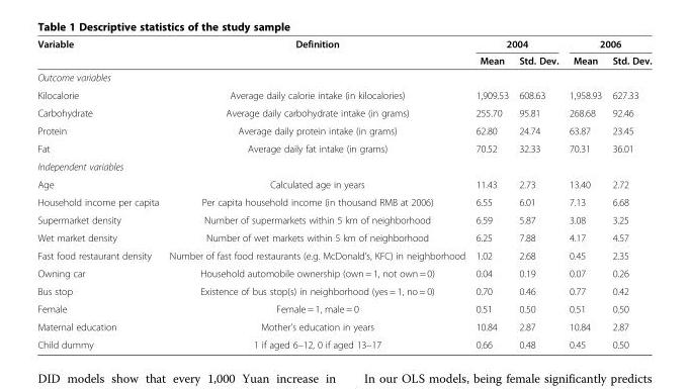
<table><thead><tr><td rowspan="2">Variable</td><td rowspan="2">Definition</td><td colspan="2">2004</td><td colspan="2">2006</td></tr><tr><td>Mean</td><td>Std. Dev.</td><td>Mean</td><td>Std. Dev.</td></tr></thead><tbody><tr><td colspan="6">Outcome variables</td></tr><tr><td>Kilocalorie</td><td>Average daily calorie intake (in kilocalories)</td><td>1,909.53</td><td>608.63</td><td>1,958.93</td><td>627.33</td></tr><tr><td>Carbohydrate</td><td>Average daily carbohydrate intake (in grams)</td><td>255.70</td><td>95.81</td><td>268.68</td><td>92.46</td></tr><tr><td>Protein</td><td>Average daily protein intake (in grams)</td><td>62.80</td><td>24.74</td><td>63.87</td><td>23.45</td></tr><tr><td>Fat</td><td>Average daily fat intake (in grams)</td><td>70.52</td><td>32.33</td><td>70.31</td><td>36.01</td></tr><tr><td colspan="6">Independent variables</td></tr><tr><td>Age</td><td>Calculated age in years</td><td>11.43</td><td>2.73</td><td>13.40</td><td>2.72</td></tr><tr><td>Household income per capita</td><td>Per capita household income (in thousand RMB at 2006)</td><td>6.55</td><td>6.01</td><td>7.13</td><td>6.68</td></tr><tr><td>Supermarket density</td><td>Number of supermarkets within 5 km of neighborhood</td><td>6.59</td><td>5.87</td><td>3.08</td><td>3.25</td></tr><tr><td>Wet market density</td><td>Number of wet markets within 5 km of neighborhood</td><td>6.25</td><td>7.88</td><td>4.17</td><td>4.57</td></tr><tr><td>Fast food restaurant density</td><td>Number of fast food restaurants (e.g. McDonald’s, KFC) in neighborhood</td><td>1.02</td><td>2.68</td><td>0.45</td><td>2.35</td></tr><tr><td>Owning car</td><td>Household automobile ownership (own = 1, not own = 0)</td><td>0.04</td><td>0.19</td><td>0.07</td><td>0.26</td></tr><tr><td>Bus stop</td><td>Existence of bus stop(s) in neighborhood (yes = 1, no = 0)</td><td>0.70</td><td>0.46</td><td>0.77</td><td>0.42</td></tr><tr><td>Female</td><td>Female = 1, male = 0</td><td>0.51</td><td>0.50</td><td>0.51</td><td>0.50</td></tr><tr><td>Maternal education</td><td>Mother’s education in years</td><td>10.84</td><td>2.87</td><td>10.84</td><td>2.87</td></tr><tr><td>Child dummy</td><td>1 if aged 6–12, 0 if aged 13–17</td><td>0.66</td><td>0.48</td><td>0.45</td><td>0.50</td></tr></tbody></table>